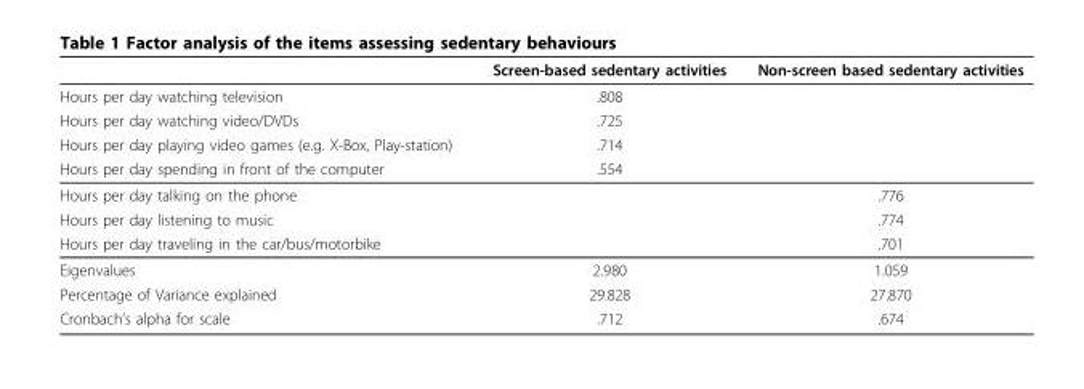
<table><thead><tr><td></td><td>Screen-based sedentary activities</td><td>Non-screen based sedentary activities</td></tr></thead><tbody><tr><td>Hours per day watching television</td><td>.808</td><td></td></tr><tr><td>Hours per day watching video/DVDs</td><td>.725</td><td></td></tr><tr><td>Hours per day playing video games (e.g. X-Box, Play-station)</td><td>.714</td><td></td></tr><tr><td>Hours per day spending in front of the computer</td><td>.554</td><td></td></tr><tr><td>Hours per day talking on the phone</td><td></td><td>.776</td></tr><tr><td>Hours per day listening to music</td><td></td><td>.774</td></tr><tr><td>Hours per day traveling in the car/bus/motorbike</td><td></td><td>.701</td></tr><tr><td>Eigenvalues</td><td>2.980</td><td>1.059</td></tr><tr><td>Percentage of Variance explained</td><td>29.828</td><td>27.870</td></tr><tr><td>Cronbach’s alpha for scale</td><td>.712</td><td>.674</td></tr></tbody></table>